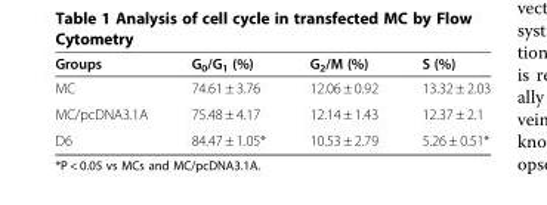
<table><thead><tr><td>Groups</td><td>G<sub>0</sub>/G<sub>1</sub> (%)</td><td>G<sub>2</sub>/M (%)</td><td>S (%)</td></tr></thead><tbody><tr><td>MC</td><td>74.61 ± 3.76</td><td>12.06 ± 0.92</td><td>13.32 ± 2.03</td></tr><tr><td>MC/pcDNA3.1A</td><td>75.48 ± 4.17</td><td>12.14 ± 1.43</td><td>12.37 ± 2.1</td></tr><tr><td>D6</td><td>84.47 ± 1.05*</td><td>10.53 ± 2.79</td><td>5.26 ± 0.51*</td></tr></tbody></table>